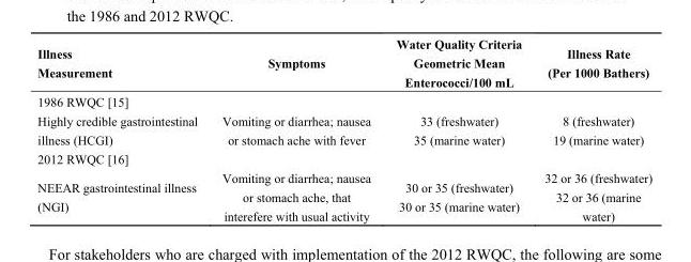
<table><thead><tr><td>Illness Measurement</td><td>Symptoms</td><td>Water Quality Criteria Geometric Mean Enterococci/100 mL</td><td>Illness Rate (Per 1000 Bathers)</td></tr></thead><tbody><tr><td colspan="4">1986 RWQC [15]</td></tr><tr><td>Highly credible gastrointestinal illness (HCGI)</td><td>Vomiting or diarrhea; nausea or stomach ache with fever</td><td>33 (freshwater) 35 (marine water)</td><td>8 (freshwater) 19 (marine water)</td></tr><tr><td colspan="4">2012 RWQC [16]</td></tr><tr><td>NEEAR gastrointestinal illness (NGI)</td><td>Vomiting or diarrhea; nausea or stomach ache, that interefere with usual activity</td><td>30 or 35 (freshwater) 30 or 35 (marine water)</td><td>32 or 36 (freshwater) 32 or 36 (marine water)</td></tr></tbody></table>